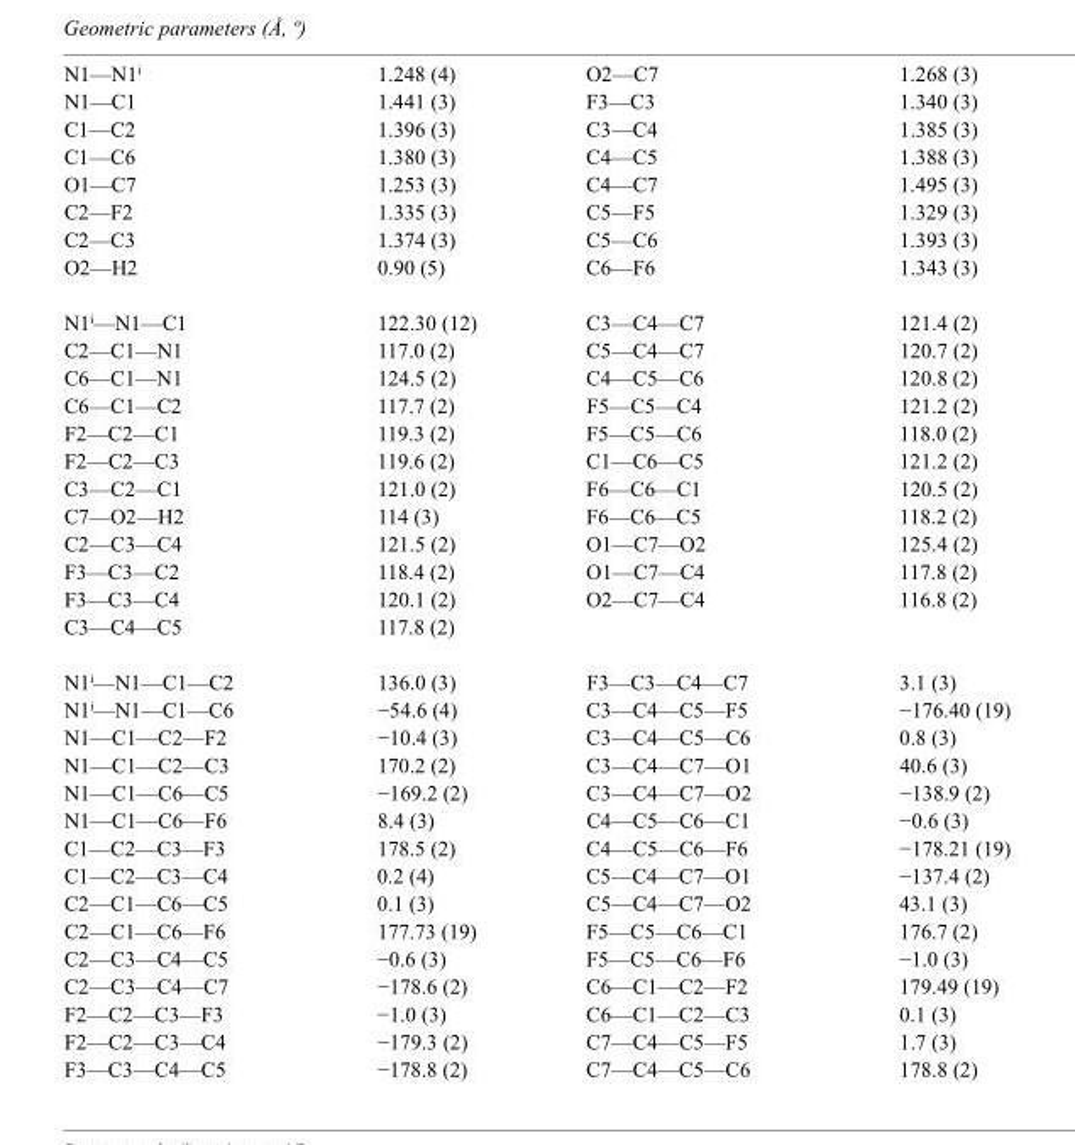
<table><tbody><tr><td>N1—N1<sup>i</sup></td><td>1.248 (4)</td><td>O2—C7</td><td>1.268 (3)</td></tr><tr><td>N1—C1</td><td>1.441 (3)</td><td>F3—C3</td><td>1.340 (3)</td></tr><tr><td>C1—C2</td><td>1.396 (3)</td><td>C3—C4</td><td>1.385 (3)</td></tr><tr><td>C1—C6</td><td>1.380 (3)</td><td>C4—C5</td><td>1.388 (3)</td></tr><tr><td>O1—C7</td><td>1.253 (3)</td><td>C4—C7</td><td>1.495 (3)</td></tr><tr><td>C2—F2</td><td>1.335 (3)</td><td>C5—F5</td><td>1.329 (3)</td></tr><tr><td>C2—C3</td><td>1.374 (3)</td><td>C5—C6</td><td>1.393 (3)</td></tr><tr><td>O2—H2</td><td>0.90 (5)</td><td>C6—F6</td><td>1.343 (3)</td></tr><tr><td>N1<sup>i</sup>—N1—C1</td><td>122.30 (12)</td><td>C3—C4—C7</td><td>121.4 (2)</td></tr><tr><td>C2—C1—N1</td><td>117.0 (2)</td><td>C5—C4—C7</td><td>120.7 (2)</td></tr><tr><td>C6—C1—N1</td><td>124.5 (2)</td><td>C4—C5—C6</td><td>120.8 (2)</td></tr><tr><td>C6—C1—C2</td><td>117.7 (2)</td><td>F5—C5—C4</td><td>121.2 (2)</td></tr><tr><td>F2—C2—C1</td><td>119.3 (2)</td><td>F5—C5—C6</td><td>118.0 (2)</td></tr><tr><td>F2—C2—C3</td><td>119.6 (2)</td><td>C1—C6—C5</td><td>121.2 (2)</td></tr><tr><td>C3—C2—C1</td><td>121.0 (2)</td><td>F6—C6—C1</td><td>120.5 (2)</td></tr><tr><td>C7—O2—H2</td><td>114 (3)</td><td>F6—C6—C5</td><td>118.2 (2)</td></tr><tr><td>C2—C3—C4</td><td>121.5 (2)</td><td>O1—C7—O2</td><td>125.4 (2)</td></tr><tr><td>F3—C3—C2</td><td>118.4 (2)</td><td>O1—C7—C4</td><td>117.8 (2)</td></tr><tr><td>F3—C3—C4</td><td>120.1 (2)</td><td>O2—C7—C4</td><td>116.8 (2)</td></tr><tr><td>C3—C4—C5</td><td>117.8 (2)</td><td></td><td></td></tr><tr><td>N1<sup>i</sup>—N1—C1—C2</td><td>136.0 (3)</td><td>F3—C3—C4—C7</td><td>3.1 (3)</td></tr><tr><td>N1<sup>i</sup>—N1—C1—C6</td><td>−54.6 (4)</td><td>C3—C4—C5—F5</td><td>−176.40 (19)</td></tr><tr><td>N1—C1—C2—F2</td><td>−10.4 (3)</td><td>C3—C4—C5—C6</td><td>0.8 (3)</td></tr><tr><td>N1—C1—C2—C3</td><td>170.2 (2)</td><td>C3—C4—C7—O1</td><td>40.6 (3)</td></tr><tr><td>N1—C1—C6—C5</td><td>−169.2 (2)</td><td>C3—C4—C7—O2</td><td>−138.9 (2)</td></tr><tr><td>N1—C1—C6—F6</td><td>8.4 (3)</td><td>C4—C5—C6—C1</td><td>−0.6 (3)</td></tr><tr><td>C1—C2—C3—F3</td><td>178.5 (2)</td><td>C4—C5—C6—F6</td><td>−178.21 (19)</td></tr><tr><td>C1—C2—C3—C4</td><td>0.2 (4)</td><td>C5—C4—C7—O1</td><td>−137.4 (2)</td></tr><tr><td>C2—C1—C6—C5</td><td>0.1 (3)</td><td>C5—C4—C7—O2</td><td>43.1 (3)</td></tr><tr><td>C2—C1—C6—F6</td><td>177.73 (19)</td><td>F5—C5—C6—C1</td><td>176.7 (2)</td></tr><tr><td>C2—C3—C4—C5</td><td>−0.6 (3)</td><td>F5—C5—C6—F6</td><td>−1.0 (3)</td></tr><tr><td>C2—C3—C4—C7</td><td>−178.6 (2)</td><td>C6—C1—C2—F2</td><td>179.49 (19)</td></tr><tr><td>F2—C2—C3—F3</td><td>−1.0 (3)</td><td>C6—C1—C2—C3</td><td>0.1 (3)</td></tr><tr><td>F2—C2—C3—C4</td><td>−179.3 (2)</td><td>C7—C4—C5—F5</td><td>1.7 (3)</td></tr><tr><td>F3—C3—C4—C5</td><td>−178.8 (2)</td><td>C7—C4—C5—C6</td><td>178.8 (2)</td></tr></tbody></table>